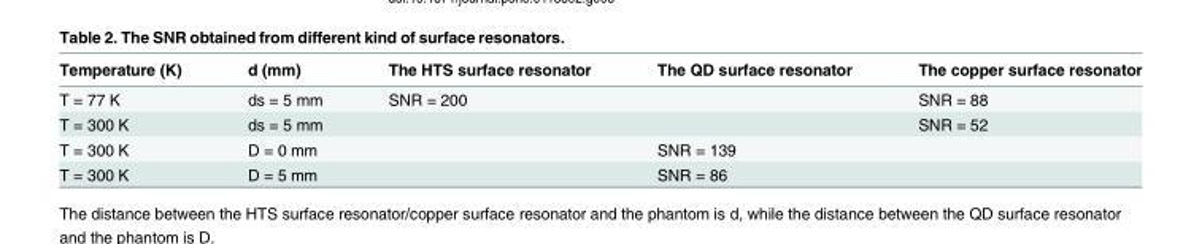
<table><thead><tr><td>Temperature (K)</td><td>d (mm)</td><td>The HTS surface resonator</td><td>The QD surface resonator</td><td>The copper surface resonator</td></tr></thead><tbody><tr><td>T = 77 K</td><td>ds = 5 mm</td><td>SNR = 200</td><td></td><td>SNR = 88</td></tr><tr><td>T = 300 K</td><td>ds = 5 mm</td><td></td><td></td><td>SNR = 52</td></tr><tr><td>T = 300 K</td><td>D = 0 mm</td><td></td><td>SNR = 139</td><td></td></tr><tr><td>T = 300 K</td><td>D = 5 mm</td><td></td><td>SNR = 86</td><td></td></tr></tbody></table>